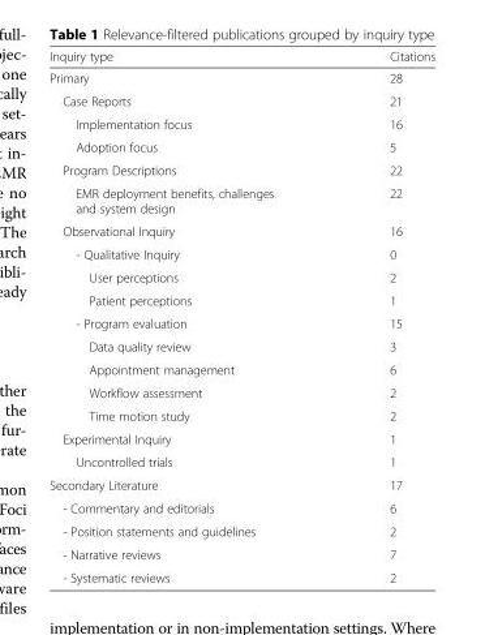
<table><thead><tr><td>Inquiry type</td><td>Citations</td></tr></thead><tbody><tr><td>Primary</td><td>28</td></tr><tr><td>Case Reports</td><td>21</td></tr><tr><td>Implementation focus</td><td>16</td></tr><tr><td>Adoption focus</td><td>5</td></tr><tr><td>Program Descriptions</td><td>22</td></tr><tr><td>EMR deployment benefits, challenges and system design</td><td>22</td></tr><tr><td>Observational Inquiry</td><td>16</td></tr><tr><td>- Qualitative Inquiry</td><td>0</td></tr><tr><td>User perceptions</td><td>2</td></tr><tr><td>Patient perceptions</td><td>1</td></tr><tr><td>- Program evaluation</td><td>15</td></tr><tr><td>Data quality review</td><td>3</td></tr><tr><td>Appointment management</td><td>6</td></tr><tr><td>Workflow assessment</td><td>2</td></tr><tr><td>Time motion study</td><td>2</td></tr><tr><td>Experimental Inquiry</td><td>1</td></tr><tr><td>Uncontrolled trials</td><td>1</td></tr><tr><td>Secondary Literature</td><td>17</td></tr><tr><td>- Commentary and editorials</td><td>6</td></tr><tr><td>- Position statements and guidelines</td><td>2</td></tr><tr><td>- Narrative reviews</td><td>7</td></tr><tr><td>- Systematic reviews</td><td>2</td></tr></tbody></table>